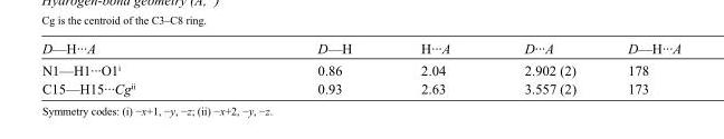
<table><tbody><tr><td>D—H···A</td><td>D—H</td><td>H···A</td><td>D···A</td><td>D—H···A</td></tr><tr><td>N1—H1···O1<sup>i</sup></td><td>0.86</td><td>2.04</td><td>2.902 (2)</td><td>178</td></tr><tr><td>C15—H15···Cg<sup>ii</sup></td><td>0.93</td><td>2.63</td><td>3.557 (2)</td><td>173</td></tr></tbody></table>